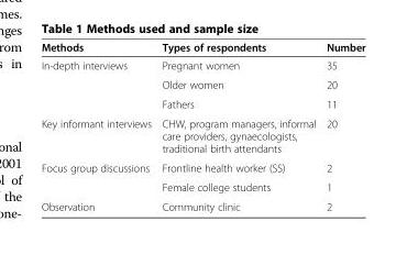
<table><thead><tr><td>Methods</td><td>Types of respondents</td><td>Number</td></tr></thead><tbody><tr><td rowspan="3">In-depth interviews</td><td>Pregnant women</td><td>35</td></tr><tr><td>Older women</td><td>20</td></tr><tr><td>Fathers</td><td>11</td></tr><tr><td>Key informant interviews</td><td>CHW, program managers, informal care providers, gynaecologists, traditional birth attendants</td><td>20</td></tr><tr><td rowspan="2">Focus group discussions</td><td>Frontline health worker (SS)</td><td>2</td></tr><tr><td>Female college students</td><td>1</td></tr><tr><td>Observation</td><td>Community clinic</td><td>2</td></tr></tbody></table>